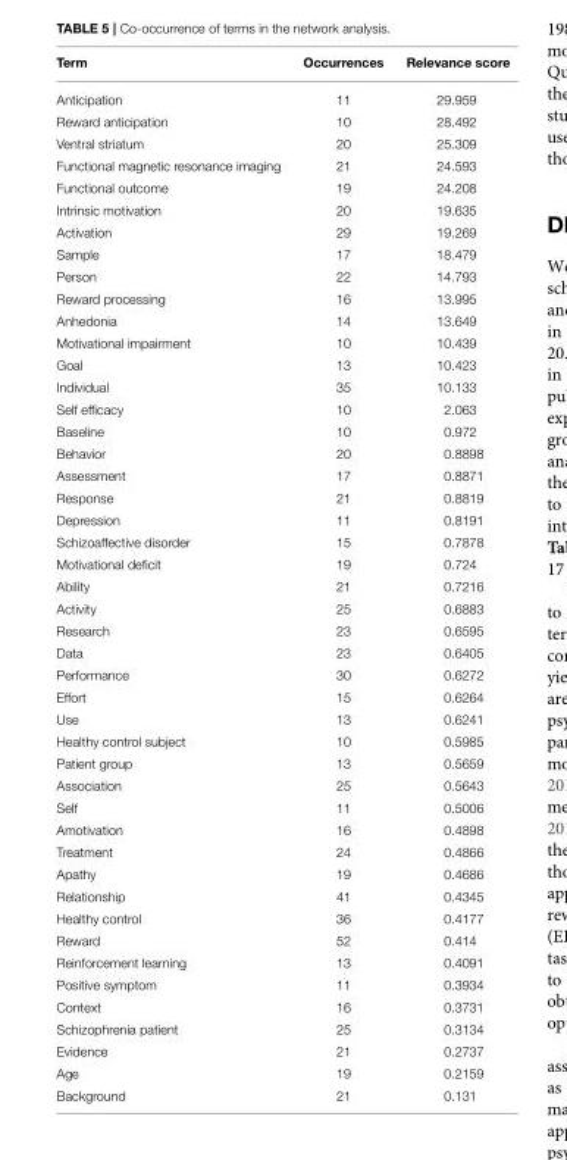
<table><thead><tr><td>Term</td><td>Occurrences</td><td>Relevance score</td></tr></thead><tbody><tr><td>Anticipation</td><td>11</td><td>29.959</td></tr><tr><td>Reward anticipation</td><td>10</td><td>28.492</td></tr><tr><td>Ventral striatum</td><td>20</td><td>25.309</td></tr><tr><td>Functional magnetic resonance imaging</td><td>21</td><td>24.593</td></tr><tr><td>Functional outcome</td><td>19</td><td>24.208</td></tr><tr><td>Intrinsic motivation</td><td>20</td><td>19.635</td></tr><tr><td>Activation</td><td>29</td><td>19.269</td></tr><tr><td>Sample</td><td>17</td><td>18.479</td></tr><tr><td>Person</td><td>22</td><td>14.793</td></tr><tr><td>Reward processing</td><td>16</td><td>13.995</td></tr><tr><td>Anhedonia</td><td>14</td><td>13.649</td></tr><tr><td>Motivational impairment</td><td>10</td><td>10.439</td></tr><tr><td>Goal</td><td>13</td><td>10.423</td></tr><tr><td>Individual</td><td>35</td><td>10.133</td></tr><tr><td>Self efficacy</td><td>10</td><td>2.063</td></tr><tr><td>Baseline</td><td>10</td><td>0.972</td></tr><tr><td>Behavior</td><td>20</td><td>0.8898</td></tr><tr><td>Assessment</td><td>17</td><td>0.8871</td></tr><tr><td>Response</td><td>21</td><td>0.8819</td></tr><tr><td>Depression</td><td>11</td><td>0.8191</td></tr><tr><td>Schizoaffective disorder</td><td>15</td><td>0.7878</td></tr><tr><td>Motivational deficit</td><td>19</td><td>0.724</td></tr><tr><td>Ability</td><td>21</td><td>0.7216</td></tr><tr><td>Activity</td><td>25</td><td>0.6883</td></tr><tr><td>Research</td><td>23</td><td>0.6595</td></tr><tr><td>Data</td><td>23</td><td>0.6405</td></tr><tr><td>Performance</td><td>30</td><td>0.6272</td></tr><tr><td>Effort</td><td>15</td><td>0.6264</td></tr><tr><td>Use</td><td>13</td><td>0.6241</td></tr><tr><td>Healthy control subject</td><td>10</td><td>0.5985</td></tr><tr><td>Patient group</td><td>13</td><td>0.5659</td></tr><tr><td>Association</td><td>25</td><td>0.5643</td></tr><tr><td>Self</td><td>11</td><td>0.5006</td></tr><tr><td>Amotivation</td><td>16</td><td>0.4898</td></tr><tr><td>Treatment</td><td>24</td><td>0.4866</td></tr><tr><td>Apathy</td><td>19</td><td>0.4686</td></tr><tr><td>Relationship</td><td>41</td><td>0.4345</td></tr><tr><td>Healthy control</td><td>36</td><td>0.4177</td></tr><tr><td>Reward</td><td>52</td><td>0.414</td></tr><tr><td>Reinforcement learning</td><td>13</td><td>0.4091</td></tr><tr><td>Positive symptom</td><td>11</td><td>0.3934</td></tr><tr><td>Context</td><td>16</td><td>0.3731</td></tr><tr><td>Schizophrenia patient</td><td>25</td><td>0.3134</td></tr><tr><td>Evidence</td><td>21</td><td>0.2737</td></tr><tr><td>Age</td><td>19</td><td>0.2159</td></tr><tr><td>Background</td><td>21</td><td>0.131</td></tr></tbody></table>